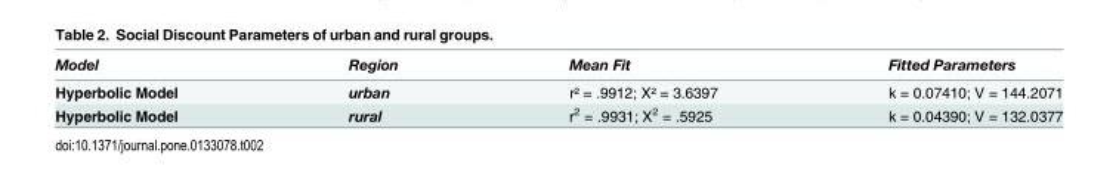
<table><thead><tr><td>Model</td><td>Region</td><td>Mean Fit</td><td>Fitted Parameters</td></tr></thead><tbody><tr><td>Hyperbolic Model</td><td>urban</td><td>r² = .9912; X² = 3.6397</td><td>k = 0.07410; V = 144.2071</td></tr><tr><td>Hyperbolic Model</td><td>rural</td><td>r<sup>2</sup> = .9931; X<sup>2</sup> = .5925</td><td>k = 0.04390; V = 132.0377</td></tr></tbody></table>